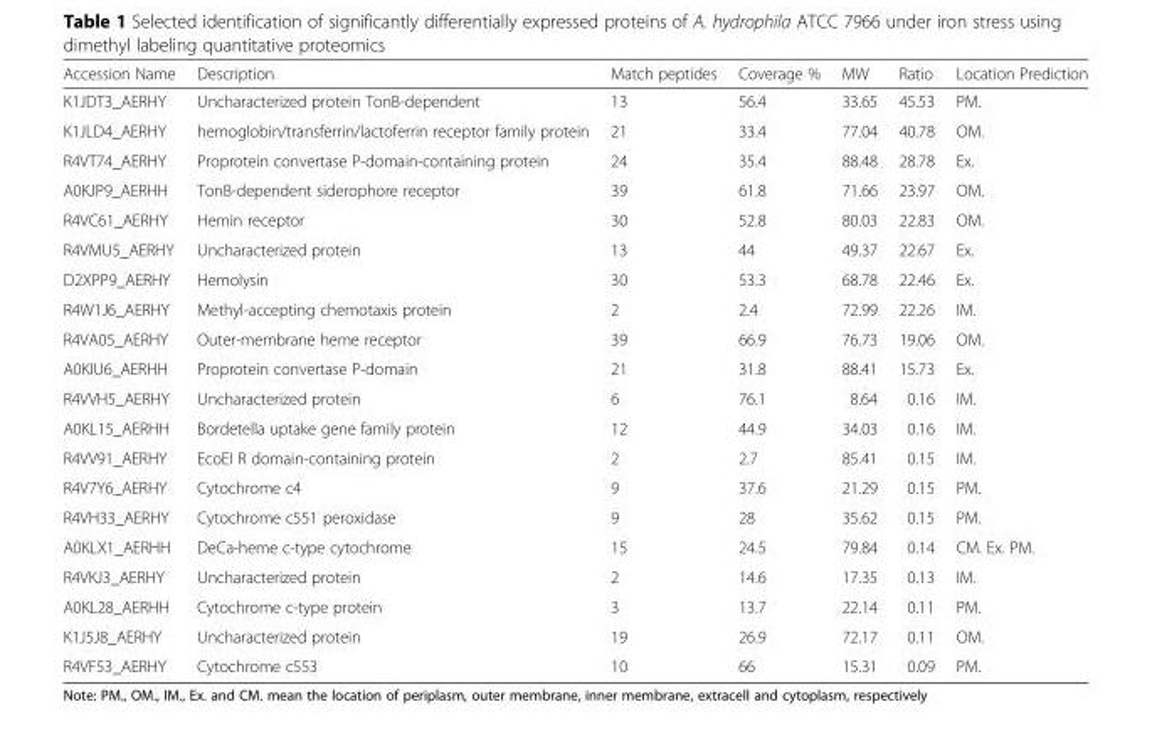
<table><thead><tr><td>Accession Name</td><td>Description</td><td>Match peptides</td><td>Coverage %</td><td>MW</td><td>Ratio</td><td>Location Prediction</td></tr></thead><tbody><tr><td>K1JDT3_AERHY</td><td>Uncharacterized protein TonB-dependent</td><td>13</td><td>56.4</td><td>33.65</td><td>45.53</td><td>PM.</td></tr><tr><td>K1JLD4_AERHY</td><td>hemoglobin/transferrin/lactoferrin receptor family protein</td><td>21</td><td>33.4</td><td>77.04</td><td>40.78</td><td>OM.</td></tr><tr><td>R4VT74_AERHY</td><td>Proprotein convertase P-domain-containing protein</td><td>24</td><td>35.4</td><td>88.48</td><td>28.78</td><td>Ex.</td></tr><tr><td>A0KJP9_AERHH</td><td>TonB-dependent siderophore receptor</td><td>39</td><td>61.8</td><td>71.66</td><td>23.97</td><td>OM.</td></tr><tr><td>R4VC61_AERHY</td><td>Hemin receptor</td><td>30</td><td>52.8</td><td>80.03</td><td>22.83</td><td>OM.</td></tr><tr><td>R4VMU5_AERHY</td><td>Uncharacterized protein</td><td>13</td><td>44</td><td>49.37</td><td>22.67</td><td>Ex.</td></tr><tr><td>D2XPP9_AERHY</td><td>Hemolysin</td><td>30</td><td>53.3</td><td>68.78</td><td>22.46</td><td>Ex.</td></tr><tr><td>R4W1J6_AERHY</td><td>Methyl-accepting chemotaxis protein</td><td>2</td><td>2.4</td><td>72.99</td><td>22.26</td><td>IM.</td></tr><tr><td>R4VA05_AERHY</td><td>Outer-membrane heme receptor</td><td>39</td><td>66.9</td><td>76.73</td><td>19.06</td><td>OM.</td></tr><tr><td>A0KIU6_AERHH</td><td>Proprotein convertase P-domain</td><td>21</td><td>31.8</td><td>88.41</td><td>15.73</td><td>Ex.</td></tr><tr><td>R4VVH5_AERHY</td><td>Uncharacterized protein</td><td>6</td><td>76.1</td><td>8.64</td><td>0.16</td><td>IM.</td></tr><tr><td>A0KL15_AERHH</td><td>Bordetella uptake gene family protein</td><td>12</td><td>44.9</td><td>34.03</td><td>0.16</td><td>IM.</td></tr><tr><td>R4VV91_AERHY</td><td>EcoEI R domain-containing protein</td><td>2</td><td>2.7</td><td>85.41</td><td>0.15</td><td>IM.</td></tr><tr><td>R4V7Y6_AERHY</td><td>Cytochrome c4</td><td>9</td><td>37.6</td><td>21.29</td><td>0.15</td><td>PM.</td></tr><tr><td>R4VH33_AERHY</td><td>Cytochrome c551 peroxidase</td><td>9</td><td>28</td><td>35.62</td><td>0.15</td><td>PM.</td></tr><tr><td>A0KLX1_AERHH</td><td>DeCa-heme c-type cytochrome</td><td>15</td><td>24.5</td><td>79.84</td><td>0.14</td><td>CM. Ex. PM.</td></tr><tr><td>R4VKJ3_AERHY</td><td>Uncharacterized protein</td><td>2</td><td>14.6</td><td>17.35</td><td>0.13</td><td>IM.</td></tr><tr><td>A0KL28_AERHH</td><td>Cytochrome c-type protein</td><td>3</td><td>13.7</td><td>22.14</td><td>0.11</td><td>PM.</td></tr><tr><td>K1J5J8_AERHY</td><td>Uncharacterized protein</td><td>19</td><td>26.9</td><td>72.17</td><td>0.11</td><td>OM.</td></tr><tr><td>R4VF53_AERHY</td><td>Cytochrome c553</td><td>10</td><td>66</td><td>15.31</td><td>0.09</td><td>PM.</td></tr></tbody></table>